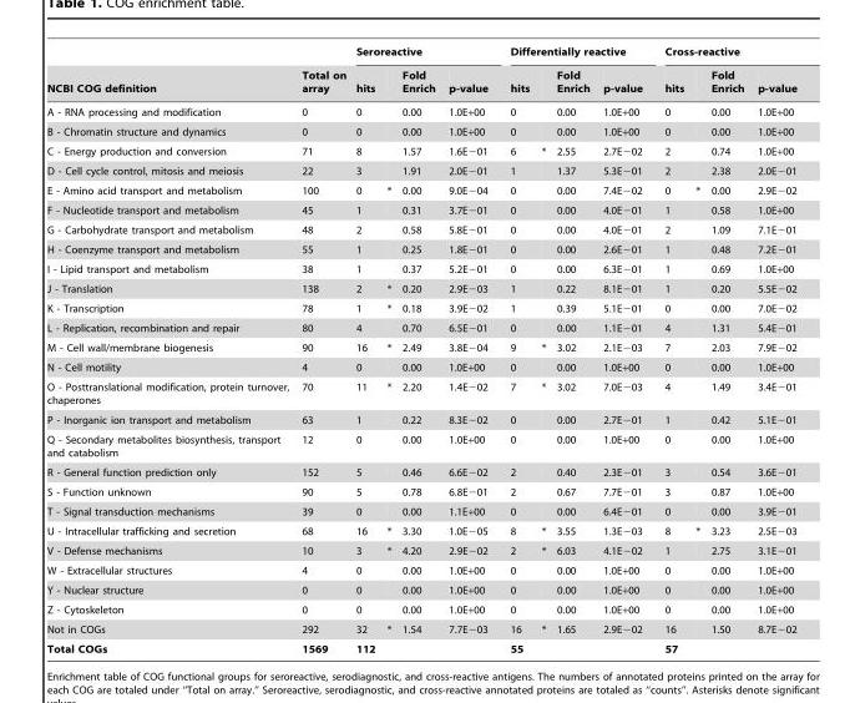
<table><thead><tr><td rowspan="2">NCBI COG definition</td><td rowspan="2">Total on array</td><td colspan="4">Seroreactive</td><td colspan="4">Differentially reactive</td><td colspan="4">Cross-reactive</td></tr><tr><td>hits</td><td></td><td>Fold Enrich</td><td>p-value</td><td>hits</td><td></td><td>Fold Enrich</td><td>p-value</td><td>hits</td><td></td><td>Fold Enrich</td><td>p-value</td></tr></thead><tbody><tr><td>A - RNA processing and modification</td><td>0</td><td>0</td><td></td><td>0.00</td><td>1.0E+00</td><td>0</td><td></td><td>0.00</td><td>1.0E+00</td><td>0</td><td></td><td>0.00</td><td>1.0E+00</td></tr><tr><td>B - Chromatin structure and dynamics</td><td>0</td><td>0</td><td></td><td>0.00</td><td>1.0E+00</td><td>0</td><td></td><td>0.00</td><td>1.0E+00</td><td>0</td><td></td><td>0.00</td><td>1.0E+00</td></tr><tr><td>C - Energy production and conversion</td><td>71</td><td>8</td><td></td><td>1.57</td><td>1.6E−01</td><td>6</td><td>*</td><td>2.55</td><td>2.7E−02</td><td>2</td><td></td><td>0.74</td><td>1.0E+00</td></tr><tr><td>D - Cell cycle control, mitosis and meiosis</td><td>22</td><td>3</td><td></td><td>1.91</td><td>2.0E−01</td><td>1</td><td></td><td>1.37</td><td>5.3E−01</td><td>2</td><td></td><td>2.38</td><td>2.0E−01</td></tr><tr><td>E - Amino acid transport and metabolism</td><td>100</td><td>0</td><td>*</td><td>0.00</td><td>9.0E−04</td><td>0</td><td></td><td>0.00</td><td>7.4E−02</td><td>0</td><td>*</td><td>0.00</td><td>2.9E−02</td></tr><tr><td>F - Nucleotide transport and metabolism</td><td>45</td><td>1</td><td></td><td>0.31</td><td>3.7E−01</td><td>0</td><td></td><td>0.00</td><td>4.0E−01</td><td>1</td><td></td><td>0.58</td><td>1.0E+00</td></tr><tr><td>G - Carbohydrate transport and metabolism</td><td>48</td><td>2</td><td></td><td>0.58</td><td>5.8E−01</td><td>0</td><td></td><td>0.00</td><td>4.0E−01</td><td>2</td><td></td><td>1.09</td><td>7.1E−01</td></tr><tr><td>H - Coenzyme transport and metabolism</td><td>55</td><td>1</td><td></td><td>0.25</td><td>1.8E−01</td><td>0</td><td></td><td>0.00</td><td>2.6E−01</td><td>1</td><td></td><td>0.48</td><td>7.2E−01</td></tr><tr><td>I - Lipid transport and metabolism</td><td>38</td><td>1</td><td></td><td>0.37</td><td>5.2E−01</td><td>0</td><td></td><td>0.00</td><td>6.3E−01</td><td>1</td><td></td><td>0.69</td><td>1.0E+00</td></tr><tr><td>J - Translation</td><td>138</td><td>2</td><td>*</td><td>0.20</td><td>2.9E−03</td><td>1</td><td></td><td>0.22</td><td>8.1E−01</td><td>1</td><td></td><td>0.20</td><td>5.5E−02</td></tr><tr><td>K - Transcription</td><td>78</td><td>1</td><td>*</td><td>0.18</td><td>3.9E−02</td><td>1</td><td></td><td>0.39</td><td>5.1E−01</td><td>0</td><td></td><td>0.00</td><td>7.0E−02</td></tr><tr><td>L - Replication, recombination and repair</td><td>80</td><td>4</td><td></td><td>0.70</td><td>6.5E−01</td><td>0</td><td></td><td>0.00</td><td>1.1E−01</td><td>4</td><td></td><td>1.31</td><td>5.4E−01</td></tr><tr><td>M - Cell wall/membrane biogenesis</td><td>90</td><td>16</td><td>*</td><td>2.49</td><td>3.8E−04</td><td>9</td><td>*</td><td>3.02</td><td>2.1E−03</td><td>7</td><td></td><td>2.03</td><td>7.9E−02</td></tr><tr><td>N - Cell motility</td><td>4</td><td>0</td><td></td><td>0.00</td><td>1.0E+00</td><td>0</td><td></td><td>0.00</td><td>1.0E+00</td><td>0</td><td></td><td>0.00</td><td>1.0E+00</td></tr><tr><td>O - Posttranslational modification, protein turnover, chaperones</td><td>70</td><td>11</td><td>*</td><td>2.20</td><td>1.4E−02</td><td>7</td><td>*</td><td>3.02</td><td>7.0E−03</td><td>4</td><td></td><td>1.49</td><td>3.4E−01</td></tr><tr><td>P - Inorganic ion transport and metabolism</td><td>63</td><td>1</td><td></td><td>0.22</td><td>8.3E−02</td><td>0</td><td></td><td>0.00</td><td>2.7E−01</td><td>1</td><td></td><td>0.42</td><td>5.1E−01</td></tr><tr><td>Q - Secondary metabolites biosynthesis, transport and catabolism</td><td>12</td><td>0</td><td></td><td>0.00</td><td>1.0E+00</td><td>0</td><td></td><td>0.00</td><td>1.0E+00</td><td>0</td><td></td><td>0.00</td><td>1.0E+00</td></tr><tr><td>R - General function prediction only</td><td>152</td><td>5</td><td></td><td>0.46</td><td>6.6E−02</td><td>2</td><td></td><td>0.40</td><td>2.3E−01</td><td>3</td><td></td><td>0.54</td><td>3.6E−01</td></tr><tr><td>S - Function unknown</td><td>90</td><td>5</td><td></td><td>0.78</td><td>6.8E−01</td><td>2</td><td></td><td>0.67</td><td>7.7E−01</td><td>3</td><td></td><td>0.87</td><td>1.0E+00</td></tr><tr><td>T - Signal transduction mechanisms</td><td>39</td><td>0</td><td></td><td>0.00</td><td>1.1E+00</td><td>0</td><td></td><td>0.00</td><td>6.4E−01</td><td>0</td><td></td><td>0.00</td><td>3.9E−01</td></tr><tr><td>U - Intracellular trafficking and secretion</td><td>68</td><td>16</td><td>*</td><td>3.30</td><td>1.0E−05</td><td>8</td><td>*</td><td>3.55</td><td>1.3E−03</td><td>8</td><td>*</td><td>3.23</td><td>2.5E−03</td></tr><tr><td>V - Defense mechanisms</td><td>10</td><td>3</td><td>*</td><td>4.20</td><td>2.9E−02</td><td>2</td><td>*</td><td>6.03</td><td>4.1E−02</td><td>1</td><td></td><td>2.75</td><td>3.1E−01</td></tr><tr><td>W - Extracellular structures</td><td>4</td><td>0</td><td></td><td>0.00</td><td>1.0E+00</td><td>0</td><td></td><td>0.00</td><td>1.0E+00</td><td>0</td><td></td><td>0.00</td><td>1.0E+00</td></tr><tr><td>Y - Nuclear structure</td><td>0</td><td>0</td><td></td><td>0.00</td><td>1.0E+00</td><td>0</td><td></td><td>0.00</td><td>1.0E+00</td><td>0</td><td></td><td>0.00</td><td>1.0E+00</td></tr><tr><td>Z - Cytoskeleton</td><td>0</td><td>0</td><td></td><td>0.00</td><td>1.0E+00</td><td>0</td><td></td><td>0.00</td><td>1.0E+00</td><td>0</td><td></td><td>0.00</td><td>1.0E+00</td></tr><tr><td>Not in COGs</td><td>292</td><td>32</td><td>*</td><td>1.54</td><td>7.7E−03</td><td>16</td><td>*</td><td>1.65</td><td>2.9E−02</td><td>16</td><td></td><td>1.50</td><td>8.7E−02</td></tr><tr><td>Total COGs</td><td>1569</td><td>112</td><td></td><td></td><td></td><td>55</td><td></td><td></td><td></td><td>57</td><td></td><td></td><td></td></tr></tbody></table>